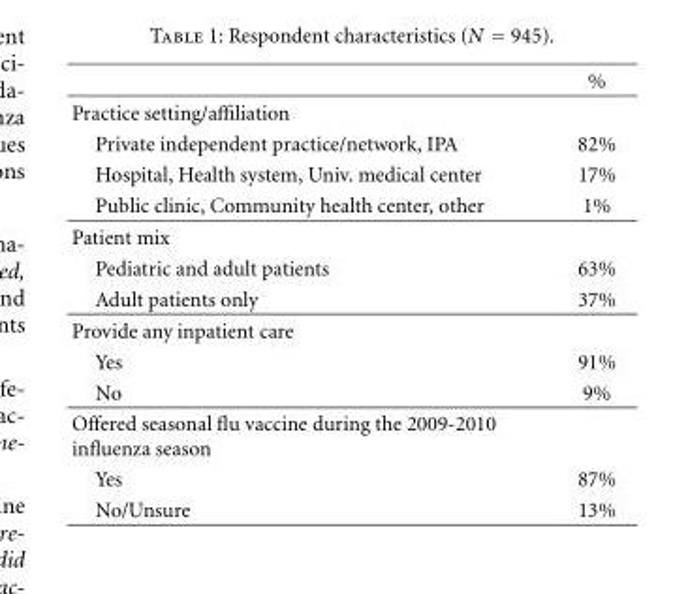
<table><thead><tr><td></td><td>%</td></tr></thead><tbody><tr><td colspan="2">Practice setting/affiliation</td></tr><tr><td>Private independent practice/network, IPA</td><td>82%</td></tr><tr><td>Hospital, Health system, Univ. medical center</td><td>17%</td></tr><tr><td>Public clinic, Community health center, other</td><td>1%</td></tr><tr><td colspan="2">Patient mix</td></tr><tr><td>Pediatric and adult patients</td><td>63%</td></tr><tr><td>Adult patients only</td><td>37%</td></tr><tr><td colspan="2">Provide any inpatient care</td></tr><tr><td>Yes</td><td>91%</td></tr><tr><td>No</td><td>9%</td></tr><tr><td colspan="2">Offered seasonal flu vaccine during the 2009-2010 influenza season</td></tr><tr><td>Yes</td><td>87%</td></tr><tr><td>No/Unsure</td><td>13%</td></tr></tbody></table>